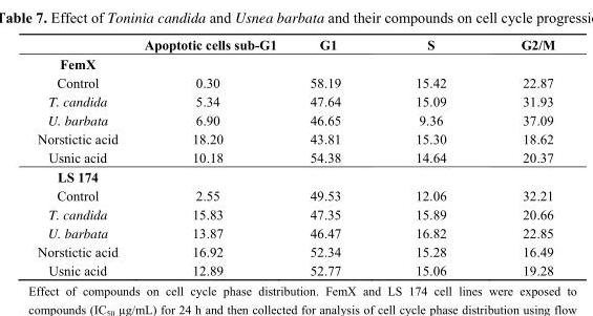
<table><thead><tr><td></td><td>Apoptotic cells sub-G1</td><td>G1</td><td>S</td><td>G2/M</td></tr></thead><tbody><tr><td colspan="5">FemX</td></tr><tr><td>Control</td><td>0.30</td><td>58.19</td><td>15.42</td><td>22.87</td></tr><tr><td>T. candida</td><td>5.34</td><td>47.64</td><td>15.09</td><td>31.93</td></tr><tr><td>U. barbata</td><td>6.90</td><td>46.65</td><td>9.36</td><td>37.09</td></tr><tr><td>Norstictic acid</td><td>18.20</td><td>43.81</td><td>15.30</td><td>18.62</td></tr><tr><td>Usnic acid</td><td>10.18</td><td>54.38</td><td>14.64</td><td>20.37</td></tr><tr><td colspan="5">LS 174</td></tr><tr><td>Control</td><td>2.55</td><td>49.53</td><td>12.06</td><td>32.21</td></tr><tr><td>T. candida</td><td>15.83</td><td>47.35</td><td>15.89</td><td>20.66</td></tr><tr><td>U. barbata</td><td>13.87</td><td>46.47</td><td>16.82</td><td>22.85</td></tr><tr><td>Norstictic acid</td><td>16.92</td><td>52.34</td><td>15.28</td><td>16.49</td></tr><tr><td>Usnic acid</td><td>12.89</td><td>52.77</td><td>15.06</td><td>19.28</td></tr></tbody></table>